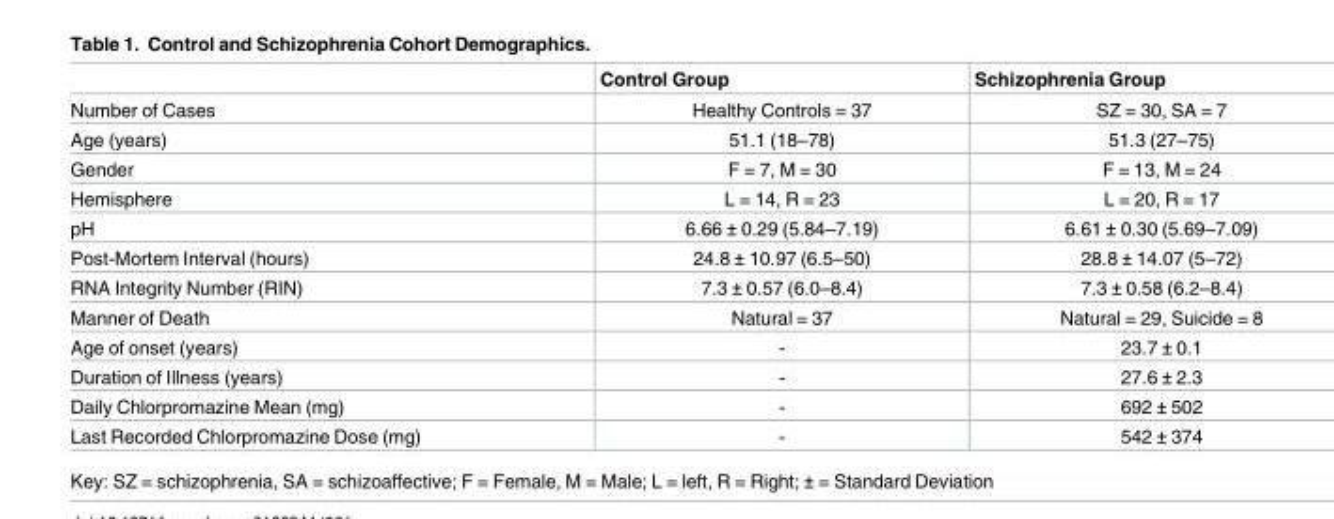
<table><thead><tr><td></td><td>Control Group</td><td>Schizophrenia Group</td></tr></thead><tbody><tr><td>Number of Cases</td><td>Healthy Controls = 37</td><td>SZ = 30, SA = 7</td></tr><tr><td>Age (years)</td><td>51.1 (18–78)</td><td>51.3 (27–75)</td></tr><tr><td>Gender</td><td>F = 7, M = 30</td><td>F = 13, M = 24</td></tr><tr><td>Hemisphere</td><td>L = 14, R = 23</td><td>L = 20, R = 17</td></tr><tr><td>pH</td><td>6.66 ± 0.29 (5.84–7.19)</td><td>6.61 ± 0.30 (5.69–7.09)</td></tr><tr><td>Post-Mortem Interval (hours)</td><td>24.8 ± 10.97 (6.5–50)</td><td>28.8 ± 14.07 (5–72)</td></tr><tr><td>RNA Integrity Number (RIN)</td><td>7.3 ± 0.57 (6.0–8.4)</td><td>7.3 ± 0.58 (6.2–8.4)</td></tr><tr><td>Manner of Death</td><td>Natural = 37</td><td>Natural = 29, Suicide = 8</td></tr><tr><td>Age of onset (years)</td><td>-</td><td>23.7 ± 0.1</td></tr><tr><td>Duration of Illness (years)</td><td>-</td><td>27.6 ± 2.3</td></tr><tr><td>Daily Chlorpromazine Mean (mg)</td><td>-</td><td>692 ± 502</td></tr><tr><td>Last Recorded Chlorpromazine Dose (mg)</td><td>-</td><td>542 ± 374</td></tr></tbody></table>